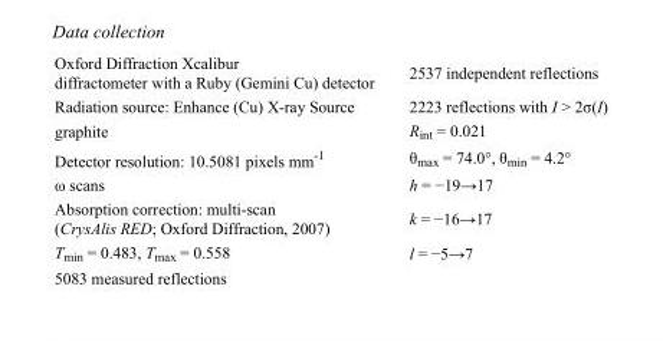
<table><tbody><tr><td>Oxford Diffraction Xcalibur diffractometer with a Ruby (Gemini Cu) detector</td><td>2537 independent reflections</td></tr><tr><td>Radiation source: Enhance (Cu) X-ray Source</td><td>2223 reflections with I &gt; 2σ(I)</td></tr><tr><td>graphite</td><td>R<sub>int</sub> = 0.021</td></tr><tr><td>Detector resolution: 10.5081 pixels mm<sup>-1</sup></td><td>θ<sub>max</sub> = 74.0°, θ<sub>min</sub> = 4.2°</td></tr><tr><td>ω scans</td><td>h = −19→17</td></tr><tr><td>Absorption correction: multi-scan (CrysAlis RED; Oxford Diffraction, 2007)</td><td>k = −16→17</td></tr><tr><td>T<sub>min</sub> = 0.483, T<sub>max</sub> = 0.558</td><td>l = −5→7</td></tr><tr><td>5083 measured reflections</td><td></td></tr></tbody></table>